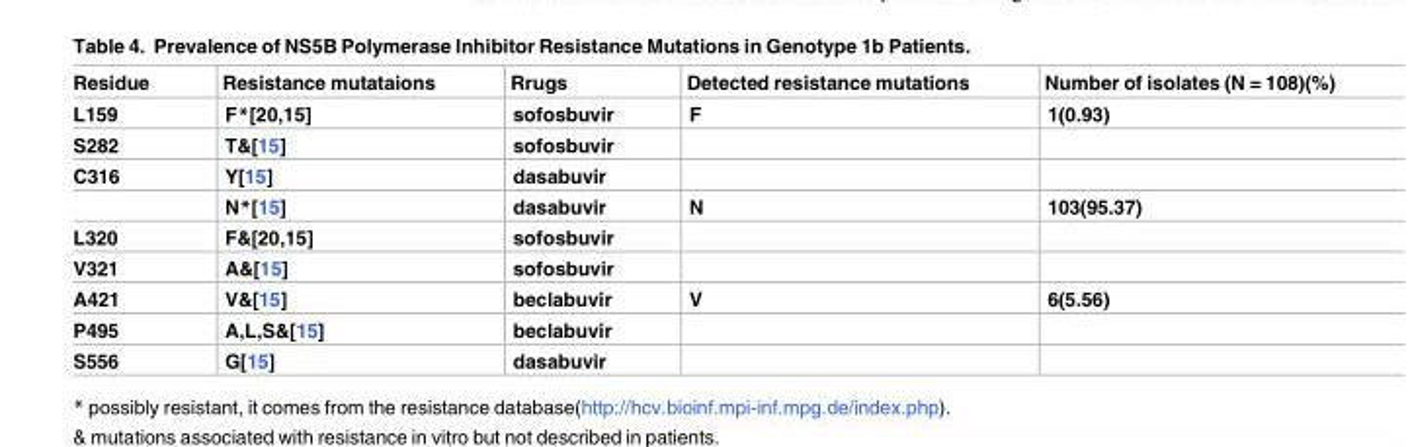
<table><thead><tr><td>Residue</td><td>Resistance mutataions</td><td>Rrugs</td><td>Detected resistance mutations</td><td>Number of isolates (N = 108)(%)</td></tr></thead><tbody><tr><td>L159</td><td>F*[20,15]</td><td>sofosbuvir</td><td>F</td><td>1(0.93)</td></tr><tr><td>S282</td><td>T&amp;[15]</td><td>sofosbuvir</td><td></td><td></td></tr><tr><td rowspan="2">C316</td><td>Y[15]</td><td>dasabuvir</td><td></td><td></td></tr><tr><td>N*[15]</td><td>dasabuvir</td><td>N</td><td>103(95.37)</td></tr><tr><td>L320</td><td>F&amp;[20,15]</td><td>sofosbuvir</td><td></td><td></td></tr><tr><td>V321</td><td>A&amp;[15]</td><td>sofosbuvir</td><td></td><td></td></tr><tr><td>A421</td><td>V&amp;[15]</td><td>beclabuvir</td><td>V</td><td>6(5.56)</td></tr><tr><td>P495</td><td>A,L,S&amp;[15]</td><td>beclabuvir</td><td></td><td></td></tr><tr><td>S556</td><td>G[15]</td><td>dasabuvir</td><td></td><td></td></tr></tbody></table>